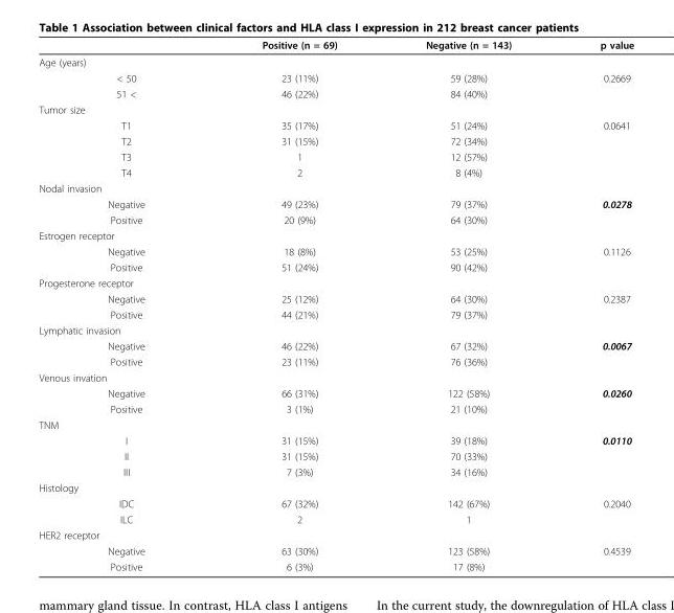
<table><thead><tr><td></td><td>Positive (n = 69)</td><td>Negative (n = 143)</td><td>p value</td></tr></thead><tbody><tr><td colspan="4">Age (years)</td></tr><tr><td>&lt; 50</td><td>23 (11%)</td><td>59 (28%)</td><td>0.2669</td></tr><tr><td>51 &lt;</td><td>46 (22%)</td><td>84 (40%)</td><td></td></tr><tr><td colspan="4">Tumor size</td></tr><tr><td>T1</td><td>35 (17%)</td><td>51 (24%)</td><td>0.0641</td></tr><tr><td>T2</td><td>31 (15%)</td><td>72 (34%)</td><td></td></tr><tr><td>T3</td><td>1</td><td>12 (57%)</td><td></td></tr><tr><td>T4</td><td>2</td><td>8 (4%)</td><td></td></tr><tr><td colspan="4">Nodal invasion</td></tr><tr><td>Negative</td><td>49 (23%)</td><td>79 (37%)</td><td>0.0278</td></tr><tr><td>Positive</td><td>20 (9%)</td><td>64 (30%)</td><td></td></tr><tr><td colspan="4">Estrogen receptor</td></tr><tr><td>Negative</td><td>18 (8%)</td><td>53 (25%)</td><td>0.1126</td></tr><tr><td>Positive</td><td>51 (24%)</td><td>90 (42%)</td><td></td></tr><tr><td colspan="4">Progesterone receptor</td></tr><tr><td>Negative</td><td>25 (12%)</td><td>64 (30%)</td><td>0.2387</td></tr><tr><td>Positive</td><td>44 (21%)</td><td>79 (37%)</td><td></td></tr><tr><td colspan="4">Lymphatic invasion</td></tr><tr><td>Negative</td><td>46 (22%)</td><td>67 (32%)</td><td>0.0067</td></tr><tr><td>Positive</td><td>23 (11%)</td><td>76 (36%)</td><td></td></tr><tr><td colspan="4">Venous invation</td></tr><tr><td>Negative</td><td>66 (31%)</td><td>122 (58%)</td><td>0.0260</td></tr><tr><td>Positive</td><td>3 (1%)</td><td>21 (10%)</td><td></td></tr><tr><td colspan="4">TNM</td></tr><tr><td>I</td><td>31 (15%)</td><td>39 (18%)</td><td>0.0110</td></tr><tr><td>II</td><td>31 (15%)</td><td>70 (33%)</td><td></td></tr><tr><td>III</td><td>7 (3%)</td><td>34 (16%)</td><td></td></tr><tr><td colspan="4">Histology</td></tr><tr><td>IDC</td><td>67 (32%)</td><td>142 (67%)</td><td>0.2040</td></tr><tr><td>ILC</td><td>2</td><td>1</td><td></td></tr><tr><td colspan="4">HER2 receptor</td></tr><tr><td>Negative</td><td>63 (30%)</td><td>123 (58%)</td><td>0.4539</td></tr><tr><td>Positive</td><td>6 (3%)</td><td>17 (8%)</td><td></td></tr></tbody></table>